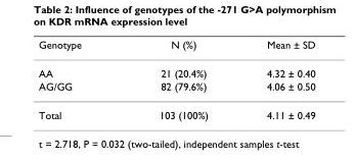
<table><thead><tr><td>Genotype</td><td>N (%)</td><td>Mean ± SD</td></tr></thead><tbody><tr><td>AA</td><td>21 (20.4%)</td><td>4.32 ± 0.40</td></tr><tr><td>AG/GG</td><td>82 (79.6%)</td><td>4.06 ± 0.50</td></tr><tr><td>Total</td><td>103 (100%)</td><td>4.11 ± 0.49</td></tr></tbody></table>